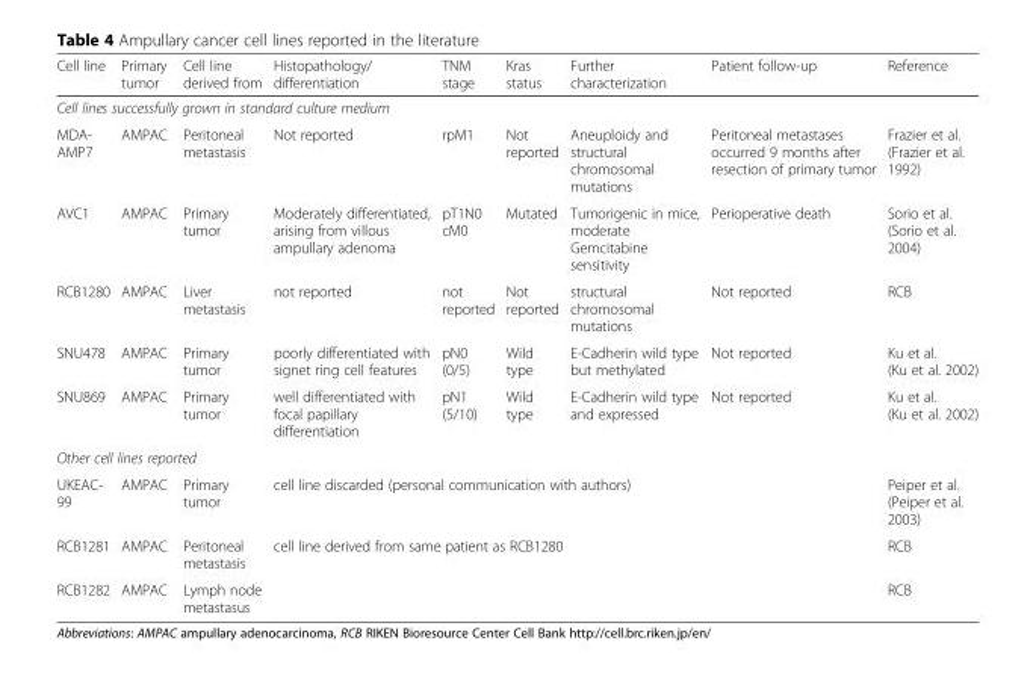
<table><thead><tr><td>Cell line</td><td>Primary tumor</td><td>Cell line derived from</td><td>Histopathology/ differentiation</td><td>TNM stage</td><td>Kras status</td><td>Further characterization</td><td>Patient follow-up</td><td>Reference</td></tr></thead><tbody><tr><td colspan="9">Cell lines successfully grown in standard culture medium</td></tr><tr><td>MDA- AMP7</td><td>AMPAC</td><td>Peritoneal metastasis</td><td>Not reported</td><td>rpM1</td><td>Not reported</td><td>Aneuploidy and structural chromosomal mutations</td><td>Peritoneal metastases occurred 9 months after resection of primary tumor</td><td>Frazier et al. (Frazier et al. 1992)</td></tr><tr><td>AVC1</td><td>AMPAC</td><td>Primary tumor</td><td>Moderately differentiated, arising from villous ampullary adenoma</td><td>pT1N0 cM0</td><td>Mutated</td><td>Tumorigenic in mice, moderate Gemcitabine sensitivity</td><td>Perioperative death</td><td>Sorio et al. (Sorio et al. 2004)</td></tr><tr><td>RCB1280</td><td>AMPAC</td><td>Liver metastasis</td><td>not reported</td><td>not reported</td><td>Not reported</td><td>structural chromosomal mutations</td><td>Not reported</td><td>RCB</td></tr><tr><td>SNU478</td><td>AMPAC</td><td>Primary tumor</td><td>poorly differentiated with signet ring cell features</td><td>pN0 (0/5)</td><td>Wild type</td><td>E-Cadherin wild type but methylated</td><td>Not reported</td><td>Ku et al. (Ku et al. 2002)</td></tr><tr><td>SNU869</td><td>AMPAC</td><td>Primary tumor</td><td>well differentiated with focal papillary differentiation</td><td>pN1 (5/10)</td><td>Wild type</td><td>E-Cadherin wild type and expressed</td><td>Not reported</td><td>Ku et al. (Ku et al. 2002)</td></tr><tr><td colspan="9">Other cell lines reported</td></tr><tr><td>UKEAC- 99</td><td>AMPAC</td><td>Primary tumor</td><td colspan="5">cell line discarded (personal communication with authors)</td><td>Peiper et al. (Peiper et al. 2003)</td></tr><tr><td>RCB1281</td><td>AMPAC</td><td>Peritoneal metastasis</td><td rowspan="2" colspan="5">cell line derived from same patient as RCB1280</td><td>RCB</td></tr><tr><td>RCB1282</td><td>AMPAC</td><td>Lymph node metastasus</td><td>RCB</td></tr></tbody></table>